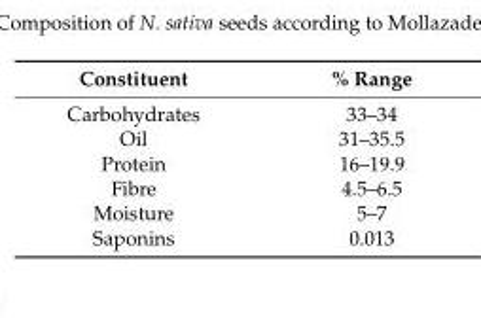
<table><thead><tr><td>Constituent</td><td>% Range</td></tr></thead><tbody><tr><td>Carbohydrates</td><td>33–34</td></tr><tr><td>Oil</td><td>31–35.5</td></tr><tr><td>Protein</td><td>16–19.9</td></tr><tr><td>Fibre</td><td>4.5–6.5</td></tr><tr><td>Moisture</td><td>5–7</td></tr><tr><td>Saponins</td><td>0.013</td></tr></tbody></table>